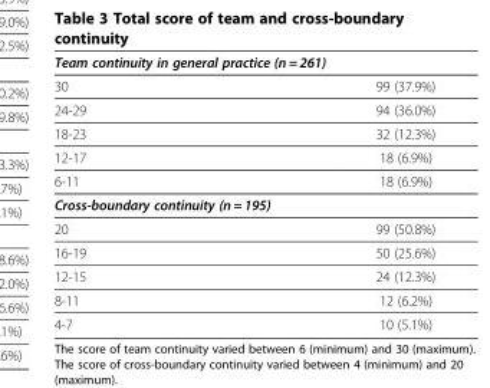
<table><thead><tr><td colspan="2">Team continuity in general practice (n = 261)</td></tr><tr><td>30</td><td>99 (37.9%)</td></tr></thead><tbody><tr><td>24-29</td><td>94 (36.0%)</td></tr><tr><td>18-23</td><td>32 (12.3%)</td></tr><tr><td>12-17</td><td>18 (6.9%)</td></tr><tr><td>6-11</td><td>18 (6.9%)</td></tr><tr><td colspan="2">Cross-boundary continuity (n = 195)</td></tr><tr><td>20</td><td>99 (50.8%)</td></tr><tr><td>16-19</td><td>50 (25.6%)</td></tr><tr><td>12-15</td><td>24 (12.3%)</td></tr><tr><td>8-11</td><td>12 (6.2%)</td></tr><tr><td>4-7</td><td>10 (5.1%)</td></tr></tbody></table>